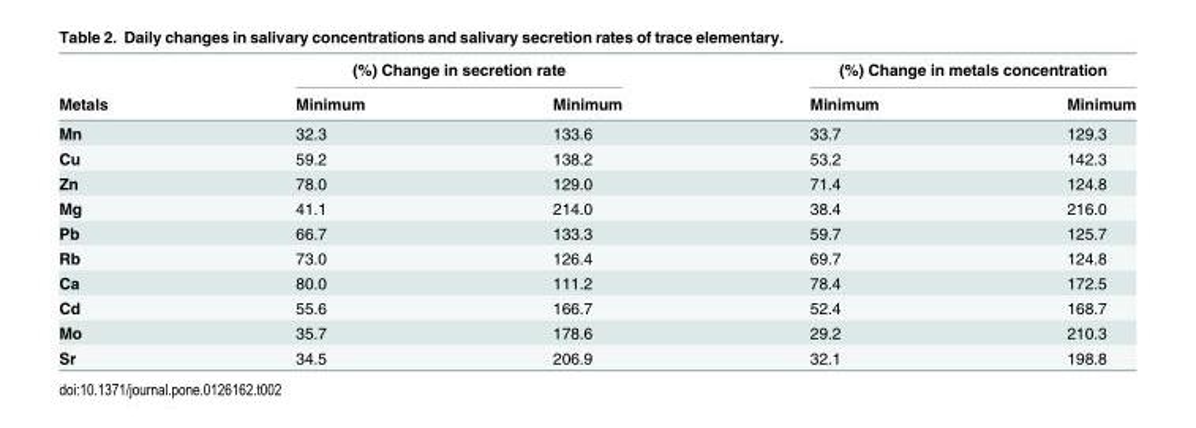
<table><thead><tr><td rowspan="2">Metals</td><td colspan="2">(%) Change in secretion rate</td><td colspan="2">(%) Change in metals concentration</td></tr><tr><td>Minimum</td><td>Minimum</td><td>Minimum</td><td>Minimum</td></tr></thead><tbody><tr><td>Mn</td><td>32.3</td><td>133.6</td><td>33.7</td><td>129.3</td></tr><tr><td>Cu</td><td>59.2</td><td>138.2</td><td>53.2</td><td>142.3</td></tr><tr><td>Zn</td><td>78.0</td><td>129.0</td><td>71.4</td><td>124.8</td></tr><tr><td>Mg</td><td>41.1</td><td>214.0</td><td>38.4</td><td>216.0</td></tr><tr><td>Pb</td><td>66.7</td><td>133.3</td><td>59.7</td><td>125.7</td></tr><tr><td>Rb</td><td>73.0</td><td>126.4</td><td>69.7</td><td>124.8</td></tr><tr><td>Ca</td><td>80.0</td><td>111.2</td><td>78.4</td><td>172.5</td></tr><tr><td>Cd</td><td>55.6</td><td>166.7</td><td>52.4</td><td>168.7</td></tr><tr><td>Mo</td><td>35.7</td><td>178.6</td><td>29.2</td><td>210.3</td></tr><tr><td>Sr</td><td>34.5</td><td>206.9</td><td>32.1</td><td>198.8</td></tr></tbody></table>